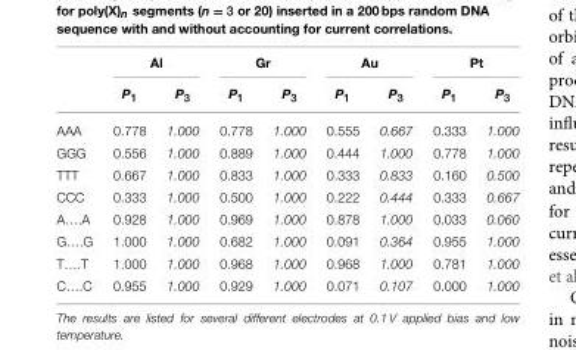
<table><thead><tr><td rowspan="2"></td><td colspan="2">Al</td><td colspan="2">Gr</td><td colspan="2">Au</td><td colspan="2">Pt</td></tr><tr><td>P<sub>1</sub></td><td>P<sub>3</sub></td><td>P<sub>1</sub></td><td>P<sub>3</sub></td><td>P<sub>1</sub></td><td>P<sub>3</sub></td><td>P<sub>1</sub></td><td>P<sub>3</sub></td></tr></thead><tbody><tr><td>AAA</td><td>0.778</td><td>1.000</td><td>0.778</td><td>1.000</td><td>0.555</td><td>0.667</td><td>0.333</td><td>1.000</td></tr><tr><td>GGG</td><td>0.556</td><td>1.000</td><td>0.889</td><td>1.000</td><td>0.444</td><td>1.000</td><td>0.778</td><td>1.000</td></tr><tr><td>TTT</td><td>0.667</td><td>1.000</td><td>0.833</td><td>1.000</td><td>0.333</td><td>0.833</td><td>0.160</td><td>0.500</td></tr><tr><td>CCC</td><td>0.333</td><td>1.000</td><td>0.500</td><td>1.000</td><td>0.222</td><td>0.444</td><td>0.333</td><td>0.667</td></tr><tr><td>A….A</td><td>0.928</td><td>1.000</td><td>0.969</td><td>1.000</td><td>0.878</td><td>1.000</td><td>0.033</td><td>0.060</td></tr><tr><td>G….G</td><td>1.000</td><td>1.000</td><td>0.682</td><td>1.000</td><td>0.091</td><td>0.364</td><td>0.955</td><td>1.000</td></tr><tr><td>T….T</td><td>1.000</td><td>1.000</td><td>0.968</td><td>1.000</td><td>0.968</td><td>1.000</td><td>0.781</td><td>1.000</td></tr><tr><td>C….C</td><td>0.955</td><td>1.000</td><td>0.929</td><td>1.000</td><td>0.071</td><td>0.107</td><td>0.000</td><td>1.000</td></tr></tbody></table>